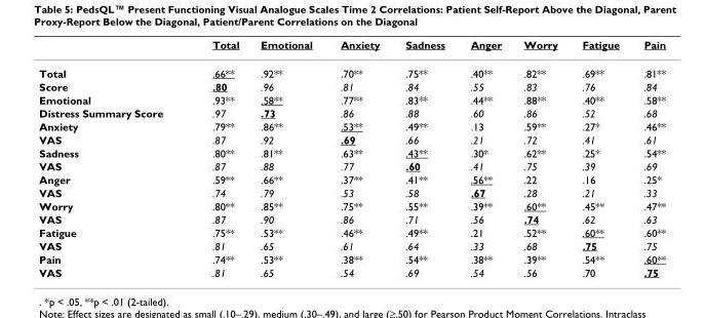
<table><thead><tr><td></td><td>Total</td><td>Emotional</td><td>Anxiety</td><td>Sadness</td><td>Anger</td><td>Worry</td><td>Fatigue</td><td>Pain</td></tr></thead><tbody><tr><td>Total</td><td>.66**</td><td>.92**</td><td>.70**</td><td>.75**</td><td>.40**</td><td>.82**</td><td>.69**</td><td>.81**</td></tr><tr><td>Score</td><td>.80</td><td>.96</td><td>.81</td><td>.84</td><td>.55</td><td>.83</td><td>.76</td><td>.84</td></tr><tr><td>Emotional</td><td>.93**</td><td>.58**</td><td>.77**</td><td>.83**</td><td>.44**</td><td>.88**</td><td>.40**</td><td>.58**</td></tr><tr><td>Distress Summary Score</td><td>.97</td><td>.73</td><td>.86</td><td>.88</td><td>.60</td><td>.86</td><td>.52</td><td>.68</td></tr><tr><td>Anxiety</td><td>.79**</td><td>.86**</td><td>.53**</td><td>.49**</td><td>.13</td><td>.59**</td><td>.27*</td><td>.46**</td></tr><tr><td>VAS</td><td>.87</td><td>.92</td><td>.69</td><td>.66</td><td>.21</td><td>.72</td><td>.41</td><td>.61</td></tr><tr><td>Sadness</td><td>.80**</td><td>.81**</td><td>.63**</td><td>.43**</td><td>.30*</td><td>.62**</td><td>.25*</td><td>.54**</td></tr><tr><td>VAS</td><td>.87</td><td>.88</td><td>.77</td><td>.60</td><td>.41</td><td>.75</td><td>.39</td><td>.69</td></tr><tr><td>Anger</td><td>.59**</td><td>.66**</td><td>.37**</td><td>.41**</td><td>.56**</td><td>.22</td><td>.16</td><td>.25*</td></tr><tr><td>VAS</td><td>.74</td><td>.79</td><td>.53</td><td>.58</td><td>.67</td><td>.28</td><td>.21</td><td>.33</td></tr><tr><td>Worry</td><td>.80**</td><td>.85**</td><td>.75**</td><td>.55**</td><td>.39**</td><td>.60**</td><td>.45**</td><td>.47**</td></tr><tr><td>VAS</td><td>.87</td><td>.90</td><td>.86</td><td>.71</td><td>.56</td><td>.74</td><td>.62</td><td>.63</td></tr><tr><td>Fatigue</td><td>.75**</td><td>.53**</td><td>.46**</td><td>.49**</td><td>.21</td><td>.52**</td><td>.60**</td><td>.60**</td></tr><tr><td>VAS</td><td>.81</td><td>.65</td><td>.61</td><td>.64</td><td>.33</td><td>.68</td><td>.75</td><td>.75</td></tr><tr><td>Pain</td><td>.74**</td><td>.53**</td><td>.38**</td><td>.54**</td><td>.38**</td><td>.39**</td><td>.54**</td><td>.60**</td></tr><tr><td>VAS</td><td>.81</td><td>.65</td><td>.54</td><td>.69</td><td>.54</td><td>.56</td><td>.70</td><td>.75</td></tr></tbody></table>